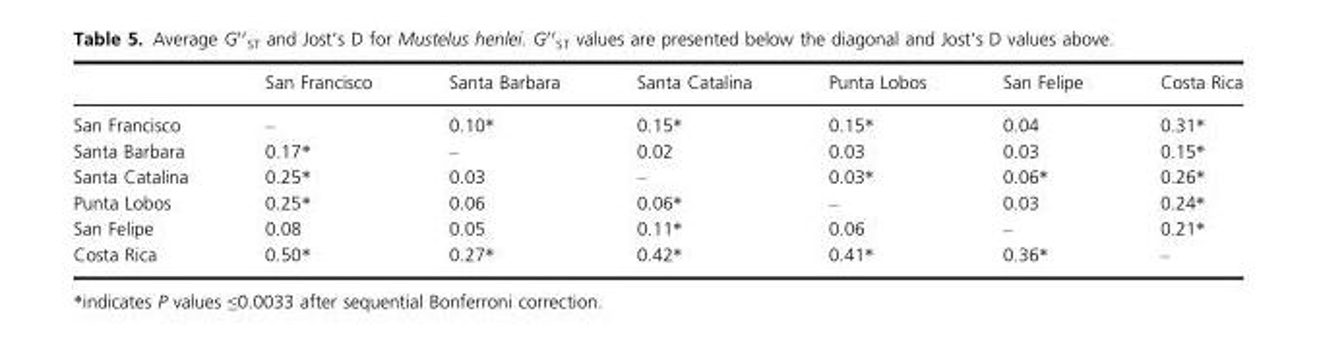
<table><thead><tr><td></td><td>San Francisco</td><td>Santa Barbara</td><td>Santa Catalina</td><td>Punta Lobos</td><td>San Felipe</td><td>Costa Rica</td></tr></thead><tbody><tr><td>San Francisco</td><td>–</td><td>0.10*</td><td>0.15*</td><td>0.15*</td><td>0.04</td><td>0.31*</td></tr><tr><td>Santa Barbara</td><td>0.17*</td><td>–</td><td>0.02</td><td>0.03</td><td>0.03</td><td>0.15*</td></tr><tr><td>Santa Catalina</td><td>0.25*</td><td>0.03</td><td>–</td><td>0.03*</td><td>0.06*</td><td>0.26*</td></tr><tr><td>Punta Lobos</td><td>0.25*</td><td>0.06</td><td>0.06*</td><td>–</td><td>0.03</td><td>0.24*</td></tr><tr><td>San Felipe</td><td>0.08</td><td>0.05</td><td>0.11*</td><td>0.06</td><td>–</td><td>0.21*</td></tr><tr><td>Costa Rica</td><td>0.50*</td><td>0.27*</td><td>0.42*</td><td>0.41*</td><td>0.36*</td><td>–</td></tr></tbody></table>